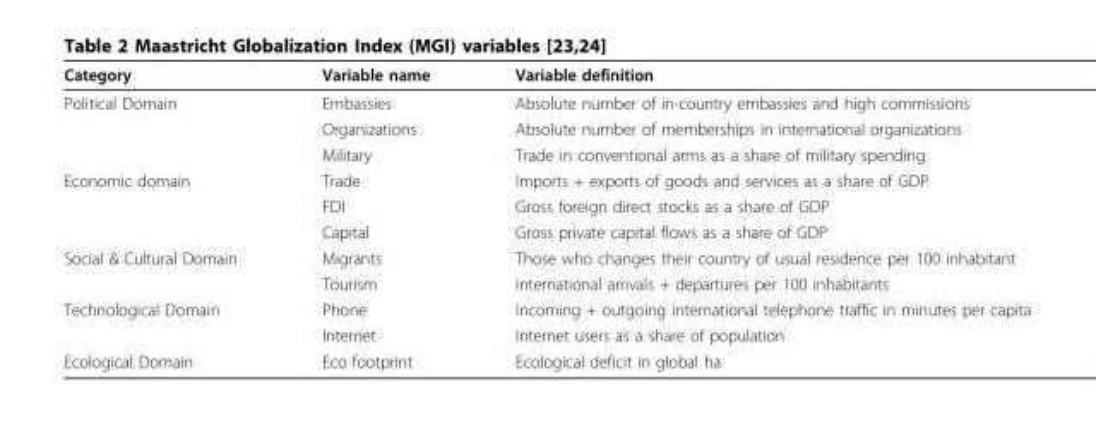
<table><thead><tr><td>Category</td><td>Variable name</td><td>Variable definition</td></tr></thead><tbody><tr><td rowspan="3">Political Domain</td><td>Embassies</td><td>Absolute number of in-country embassies and high commissions</td></tr><tr><td>Organizations</td><td>Absolute number of memberships in international organizations</td></tr><tr><td>Military</td><td>Trade in conventional arms as a share of military spending</td></tr><tr><td rowspan="3">Economic domain</td><td>Trade</td><td>Imports + exports of goods and services as a share of GDP</td></tr><tr><td>FDI</td><td>Gross foreign direct stocks as a share of GDP</td></tr><tr><td>Capital</td><td>Gross private capital flows as a share of GDP</td></tr><tr><td rowspan="2">Social &amp; Cultural Domain</td><td>Migrants</td><td>Those who changes their country of usual residence per 100 inhabitant</td></tr><tr><td>Tourism</td><td>International arrivals + departures per 100 inhabitants</td></tr><tr><td rowspan="2">Technological Domain</td><td>Phone</td><td>Incoming + outgoing international telephone traffic in minutes per capita</td></tr><tr><td>Internet</td><td>Internet users as a share of population</td></tr><tr><td>Ecological Domain</td><td>Eco footprint</td><td>Ecological deficit in global ha</td></tr></tbody></table>